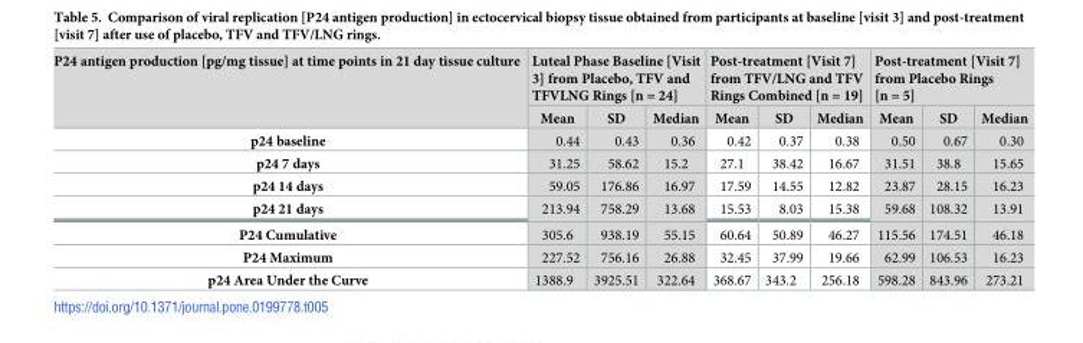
<table><thead><tr><td rowspan="2">P24 antigen production [pg/mg tissue] at time points in 21 day tissue culture</td><td colspan="3">Luteal Phase Baseline [Visit 3] from Placebo, TFV and TFVLNG Rings [n = 24]</td><td colspan="3">Post-treatment [Visit 7] from TFV/LNG and TFV Rings Combined [n = 19]</td><td colspan="3">Post-treatment [Visit 7] from Placebo Rings [n = 5]</td></tr><tr><td>Mean</td><td>SD</td><td>Median</td><td>Mean</td><td>SD</td><td>Median</td><td>Mean</td><td>SD</td><td>Median</td></tr></thead><tbody><tr><td>p24 baseline</td><td>0.44</td><td>0.43</td><td>0.36</td><td>0.42</td><td>0.37</td><td>0.38</td><td>0.50</td><td>0.67</td><td>0.30</td></tr><tr><td>p24 7 days</td><td>31.25</td><td>58.62</td><td>15.2</td><td>27.1</td><td>38.42</td><td>16.67</td><td>31.51</td><td>38.8</td><td>15.65</td></tr><tr><td>p24 14 days</td><td>59.05</td><td>176.86</td><td>16.97</td><td>17.59</td><td>14.55</td><td>12.82</td><td>23.87</td><td>28.15</td><td>16.23</td></tr><tr><td>p24 21 days</td><td>213.94</td><td>758.29</td><td>13.68</td><td>15.53</td><td>8.03</td><td>15.38</td><td>59.68</td><td>108.32</td><td>13.91</td></tr><tr><td>P24 Cumulative</td><td>305.6</td><td>938.19</td><td>55.15</td><td>60.64</td><td>50.89</td><td>46.27</td><td>115.56</td><td>174.51</td><td>46.18</td></tr><tr><td>P24 Maximum</td><td>227.52</td><td>756.16</td><td>26.88</td><td>32.45</td><td>37.99</td><td>19.66</td><td>62.99</td><td>106.53</td><td>16.23</td></tr><tr><td>p24 Area Under the Curve</td><td>1388.9</td><td>3925.51</td><td>322.64</td><td>368.67</td><td>343.2</td><td>256.18</td><td>598.28</td><td>843.96</td><td>273.21</td></tr></tbody></table>